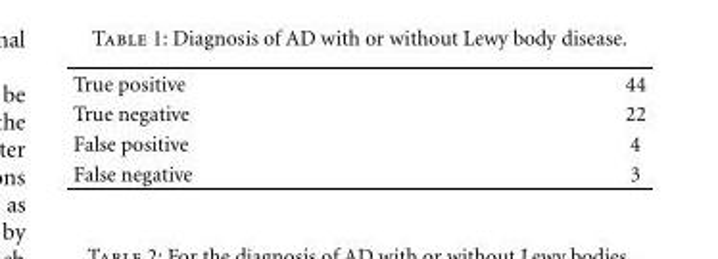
<table><tbody><tr><td>True positive</td><td>44</td></tr><tr><td>True negative</td><td>22</td></tr><tr><td>False positive</td><td>4</td></tr><tr><td>False negative</td><td>3</td></tr></tbody></table>